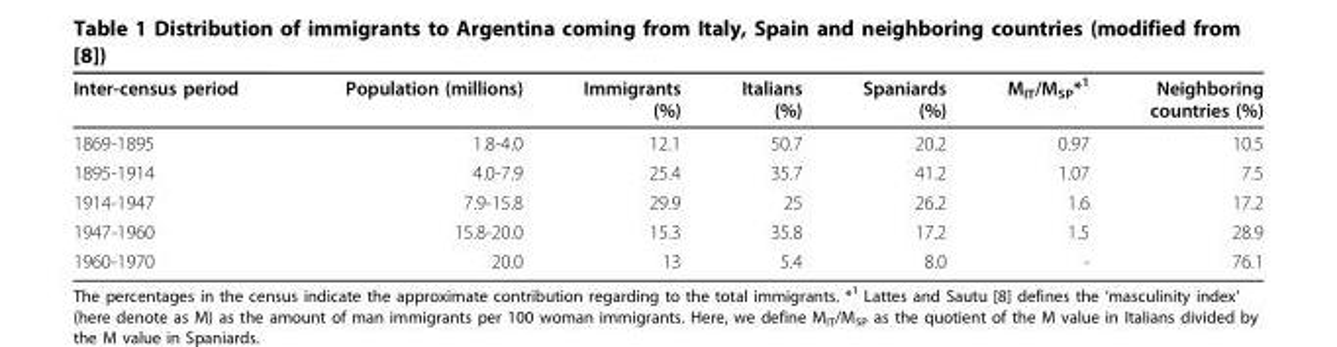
<table><thead><tr><td>Inter-census period</td><td>Population (millions)</td><td>Immigrants (%)</td><td>Italians (%)</td><td>Spaniards (%)</td><td>M<sub>IT</sub>/M<sub>SP</sub>*<sup>1</sup></td><td>Neighboring countries (%)</td></tr></thead><tbody><tr><td>1869-1895</td><td>1.8-4.0</td><td>12.1</td><td>50.7</td><td>20.2</td><td>0.97</td><td>10.5</td></tr><tr><td>1895-1914</td><td>4.0-7.9</td><td>25.4</td><td>35.7</td><td>41.2</td><td>1.07</td><td>7.5</td></tr><tr><td>1914-1947</td><td>7.9-15.8</td><td>29.9</td><td>25</td><td>26.2</td><td>1.6</td><td>17.2</td></tr><tr><td>1947-1960</td><td>15.8-20.0</td><td>15.3</td><td>35.8</td><td>17.2</td><td>1.5</td><td>28.9</td></tr><tr><td>1960-1970</td><td>20.0</td><td>13</td><td>5.4</td><td>8.0</td><td>-</td><td>76.1</td></tr></tbody></table>